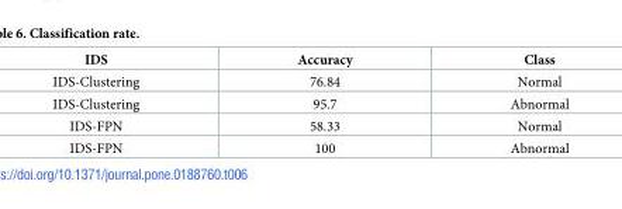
<table><thead><tr><td>IDS</td><td>Accuracy</td><td>Class</td></tr></thead><tbody><tr><td>IDS-Clustering</td><td>76.84</td><td>Normal</td></tr><tr><td>IDS-Clustering</td><td>95.7</td><td>Abnormal</td></tr><tr><td>IDS-FPN</td><td>58.33</td><td>Normal</td></tr><tr><td>IDS-FPN</td><td>100</td><td>Abnormal</td></tr></tbody></table>